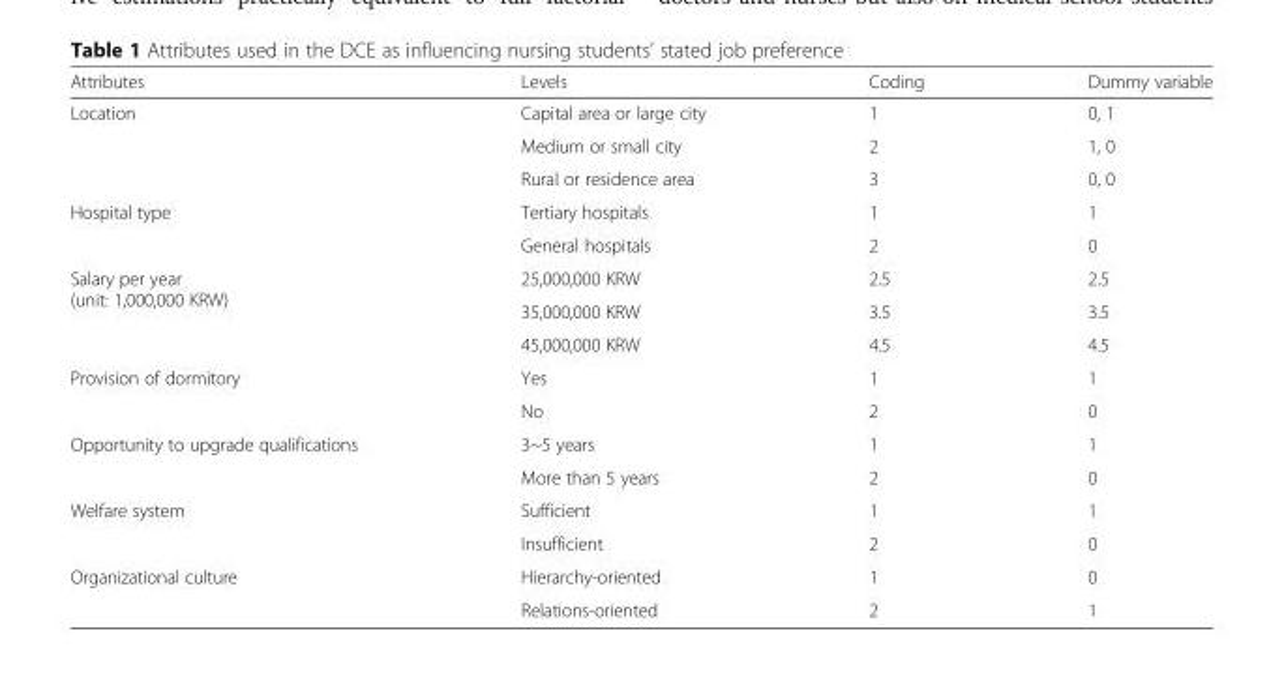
<table><thead><tr><td>Attributes</td><td>Levels</td><td>Coding</td><td>Dummy variable</td></tr></thead><tbody><tr><td rowspan="3">Location</td><td>Capital area or large city</td><td>1</td><td>0, 1</td></tr><tr><td>Medium or small city</td><td>2</td><td>1, 0</td></tr><tr><td>Rural or residence area</td><td>3</td><td>0, 0</td></tr><tr><td rowspan="2">Hospital type</td><td>Tertiary hospitals</td><td>1</td><td>1</td></tr><tr><td>General hospitals</td><td>2</td><td>0</td></tr><tr><td rowspan="3">Salary per year (unit: 1,000,000 KRW)</td><td>25,000,000 KRW</td><td>2.5</td><td>2.5</td></tr><tr><td>35,000,000 KRW</td><td>3.5</td><td>3.5</td></tr><tr><td>45,000,000 KRW</td><td>4.5</td><td>4.5</td></tr><tr><td rowspan="2">Provision of dormitory</td><td>Yes</td><td>1</td><td>1</td></tr><tr><td>No</td><td>2</td><td>0</td></tr><tr><td rowspan="2">Opportunity to upgrade qualifications</td><td>3~5 years</td><td>1</td><td>1</td></tr><tr><td>More than 5 years</td><td>2</td><td>0</td></tr><tr><td rowspan="2">Welfare system</td><td>Sufficient</td><td>1</td><td>1</td></tr><tr><td>Insufficient</td><td>2</td><td>0</td></tr><tr><td rowspan="2">Organizational culture</td><td>Hierarchy-oriented</td><td>1</td><td>0</td></tr><tr><td>Relations-oriented</td><td>2</td><td>1</td></tr></tbody></table>